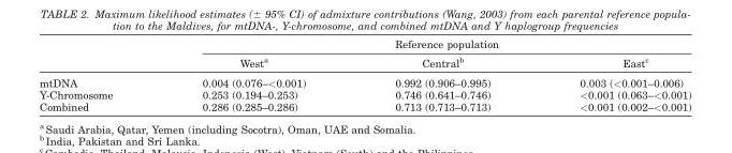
<table><thead><tr><td rowspan="2"></td><td colspan="3">Reference population</td></tr><tr><td>West<sup>a</sup></td><td>Central<sup>b</sup></td><td>East<sup>c</sup></td></tr></thead><tbody><tr><td>mtDNA</td><td>0.004 (0.076–&lt;0.001)</td><td>0.992 (0.906–0.995)</td><td>0.003 (&lt;0.001–0.006)</td></tr><tr><td>Y-Chromosome</td><td>0.253 (0.194–0.253)</td><td>0.746 (0.641–0.746)</td><td>&lt;0.001 (0.063–&lt;0.001)</td></tr><tr><td>Combined</td><td>0.286 (0.285–0.286)</td><td>0.713 (0.713–0.713)</td><td>&lt;0.001 (0.002–&lt;0.001)</td></tr></tbody></table>